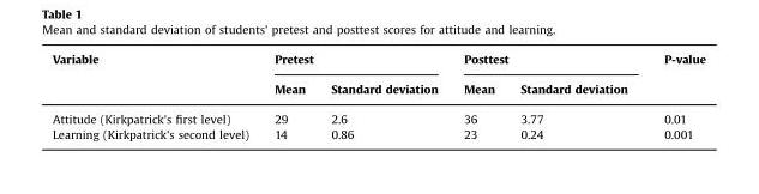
<table><thead><tr><td rowspan="2">Variable</td><td colspan="2">Pretest</td><td colspan="2">Posttest</td><td rowspan="2">P-value</td></tr><tr><td>Mean</td><td>Standard deviation</td><td>Mean</td><td>Standard deviation</td></tr></thead><tbody><tr><td>Attitude (Kirkpatrick&#x27;s first level)</td><td>29</td><td>2.6</td><td>36</td><td>3.77</td><td>0.01</td></tr><tr><td>Learning (Kirkpatrick&#x27;s second level)</td><td>14</td><td>0.86</td><td>23</td><td>0.24</td><td>0.001</td></tr></tbody></table>